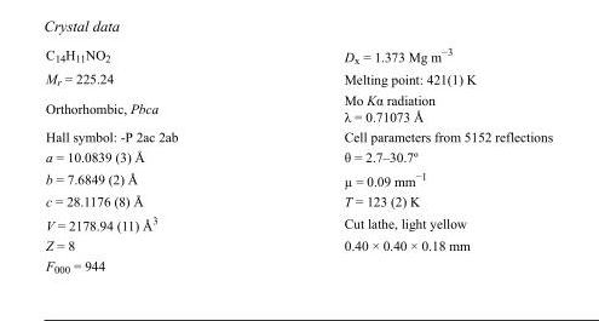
<table><tbody><tr><td>C<sub>14</sub>H<sub>11</sub>NO<sub>2</sub></td><td>D<sub>x</sub> = 1.373 Mg m<sup>−3</sup></td></tr><tr><td>M<sub>r</sub> = 225.24</td><td>Melting point: 421(1) K</td></tr><tr><td>Orthorhombic, Pbca</td><td>Mo Kα radiation λ = 0.71073 Å</td></tr><tr><td>Hall symbol: -P 2ac 2ab</td><td>Cell parameters from 5152 reflections</td></tr><tr><td>a = 10.0839 (3) Å</td><td>θ = 2.7–30.7º</td></tr><tr><td>b = 7.6849 (2) Å</td><td>µ = 0.09 mm<sup>−1</sup></td></tr><tr><td>c = 28.1176 (8) Å</td><td>T = 123 (2) K</td></tr><tr><td>V = 2178.94 (11) Å<sup>3</sup></td><td>Cut lathe, light yellow</td></tr><tr><td>Z = 8</td><td>0.40 × 0.40 × 0.18 mm</td></tr><tr><td>F<sub>000</sub> = 944</td><td></td></tr></tbody></table>